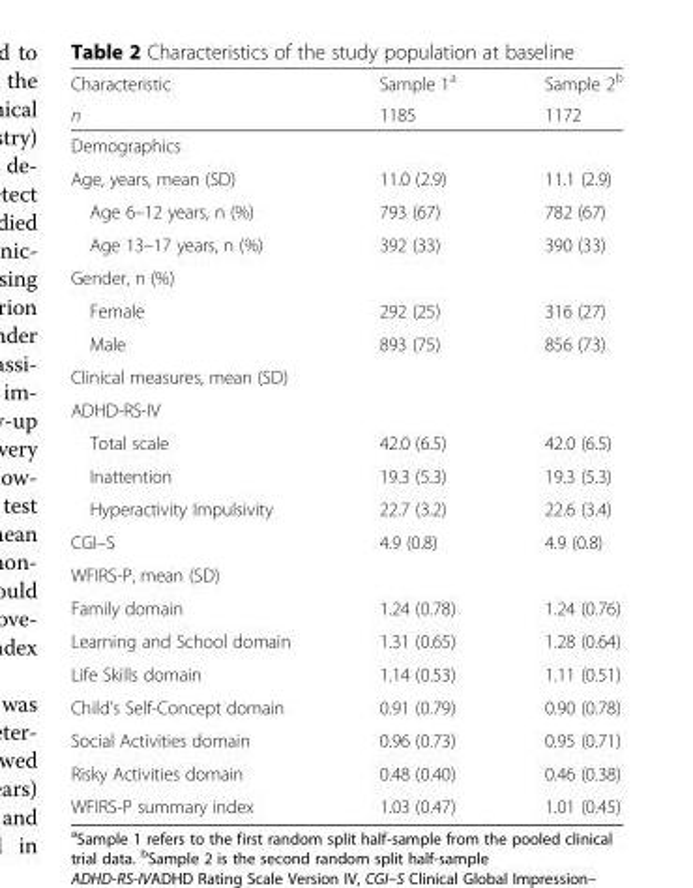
<table><thead><tr><td rowspan="2">Characteristic n</td><td rowspan="2">Sample 1<sup>a</sup> 1185</td><td rowspan="2">Sample 2<sup>b</sup> 1172</td></tr><tr></tr></thead><tbody><tr><td colspan="3">Demographics</td></tr><tr><td>Age, years, mean (SD)</td><td>11.0 (2.9)</td><td>11.1 (2.9)</td></tr><tr><td>Age 6–12 years, n (%)</td><td>793 (67)</td><td>782 (67)</td></tr><tr><td>Age 13–17 years, n (%)</td><td>392 (33)</td><td>390 (33)</td></tr><tr><td colspan="3">Gender, n (%)</td></tr><tr><td>Female</td><td>292 (25)</td><td>316 (27)</td></tr><tr><td>Male</td><td>893 (75)</td><td>856 (73)</td></tr><tr><td colspan="3">Clinical measures, mean (SD)</td></tr><tr><td colspan="3">ADHD-RS-IV</td></tr><tr><td>Total scale</td><td>42.0 (6.5)</td><td>42.0 (6.5)</td></tr><tr><td>Inattention</td><td>19.3 (5.3)</td><td>19.3 (5.3)</td></tr><tr><td>Hyperactivity Impulsivity</td><td>22.7 (3.2)</td><td>22.6 (3.4)</td></tr><tr><td>CGI–S</td><td>4.9 (0.8)</td><td>4.9 (0.8)</td></tr><tr><td colspan="3">WFIRS-P, mean (SD)</td></tr><tr><td>Family domain</td><td>1.24 (0.78)</td><td>1.24 (0.76)</td></tr><tr><td>Learning and School domain</td><td>1.31 (0.65)</td><td>1.28 (0.64)</td></tr><tr><td>Life Skills domain</td><td>1.14 (0.53)</td><td>1.11 (0.51)</td></tr><tr><td>Child’s Self-Concept domain</td><td>0.91 (0.79)</td><td>0.90 (0.78)</td></tr><tr><td>Social Activities domain</td><td>0.96 (0.73)</td><td>0.95 (0.71)</td></tr><tr><td>Risky Activities domain</td><td>0.48 (0.40)</td><td>0.46 (0.38)</td></tr><tr><td>WFIRS-P summary index</td><td>1.03 (0.47)</td><td>1.01 (0.45)</td></tr></tbody></table>